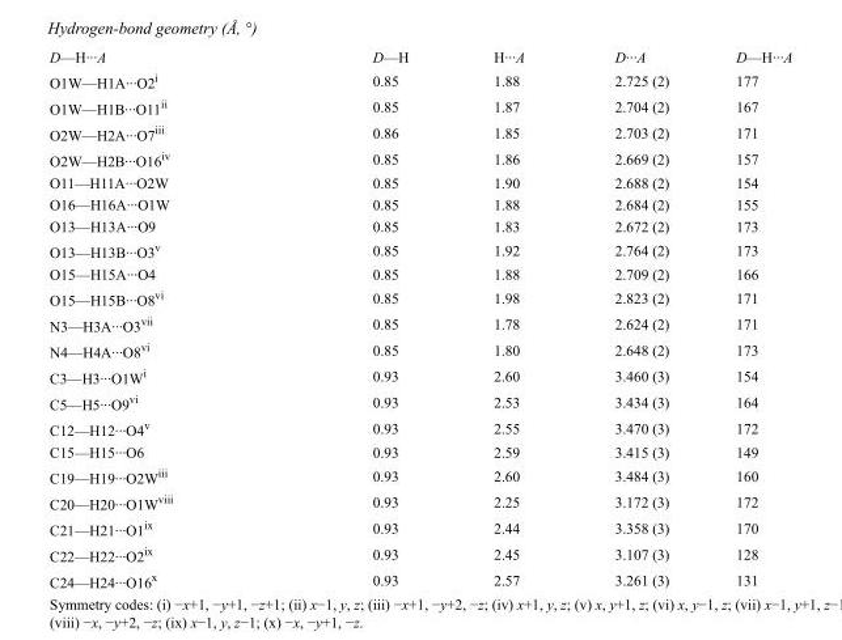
<table><tbody><tr><td>D—H···A</td><td>D—H</td><td>H···A</td><td>D···A</td><td>D—H···A</td></tr><tr><td>O1W—H1A···O2<sup>i</sup></td><td>0.85</td><td>1.88</td><td>2.725 (2)</td><td>177</td></tr><tr><td>O1W—H1B···O11<sup>ii</sup></td><td>0.85</td><td>1.87</td><td>2.704 (2)</td><td>167</td></tr><tr><td>O2W—H2A···O7<sup>iii</sup></td><td>0.86</td><td>1.85</td><td>2.703 (2)</td><td>171</td></tr><tr><td>O2W—H2B···O16<sup>iv</sup></td><td>0.85</td><td>1.86</td><td>2.669 (2)</td><td>157</td></tr><tr><td>O11—H11A···O2W</td><td>0.85</td><td>1.90</td><td>2.688 (2)</td><td>154</td></tr><tr><td>O16—H16A···O1W</td><td>0.85</td><td>1.88</td><td>2.684 (2)</td><td>155</td></tr><tr><td>O13—H13A···O9</td><td>0.85</td><td>1.83</td><td>2.672 (2)</td><td>173</td></tr><tr><td>O13—H13B···O3<sup>v</sup></td><td>0.85</td><td>1.92</td><td>2.764 (2)</td><td>173</td></tr><tr><td>O15—H15A···O4</td><td>0.85</td><td>1.88</td><td>2.709 (2)</td><td>166</td></tr><tr><td>O15—H15B···O8<sup>vi</sup></td><td>0.85</td><td>1.98</td><td>2.823 (2)</td><td>171</td></tr><tr><td>N3—H3A···O3<sup>vii</sup></td><td>0.85</td><td>1.78</td><td>2.624 (2)</td><td>171</td></tr><tr><td>N4—H4A···O8<sup>vi</sup></td><td>0.85</td><td>1.80</td><td>2.648 (2)</td><td>173</td></tr><tr><td>C3—H3···O1W<sup>i</sup></td><td>0.93</td><td>2.60</td><td>3.460 (3)</td><td>154</td></tr><tr><td>C5—H5···O9<sup>vi</sup></td><td>0.93</td><td>2.53</td><td>3.434 (3)</td><td>164</td></tr><tr><td>C12—H12···O4<sup>v</sup></td><td>0.93</td><td>2.55</td><td>3.470 (3)</td><td>172</td></tr><tr><td>C15—H15···O6</td><td>0.93</td><td>2.59</td><td>3.415 (3)</td><td>149</td></tr><tr><td>C19—H19···O2W<sup>iii</sup></td><td>0.93</td><td>2.60</td><td>3.484 (3)</td><td>160</td></tr><tr><td>C20—H20···O1W<sup>viii</sup></td><td>0.93</td><td>2.25</td><td>3.172 (3)</td><td>172</td></tr><tr><td>C21—H21···O1<sup>ix</sup></td><td>0.93</td><td>2.44</td><td>3.358 (3)</td><td>170</td></tr><tr><td>C22—H22···O2<sup>ix</sup></td><td>0.93</td><td>2.45</td><td>3.107 (3)</td><td>128</td></tr><tr><td>C24—H24···O16<sup>x</sup></td><td>0.93</td><td>2.57</td><td>3.261 (3)</td><td>131</td></tr></tbody></table>